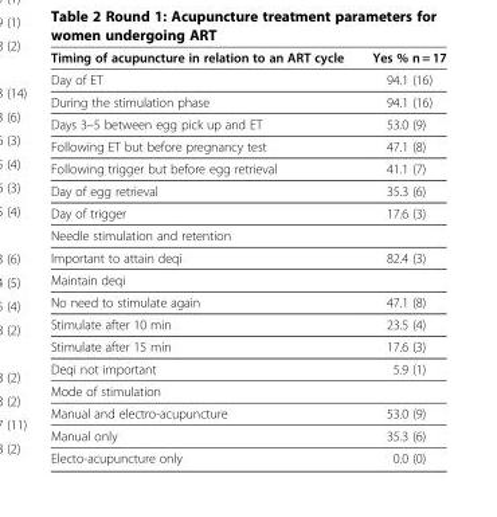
<table><thead><tr><td>Timing of acupuncture in relation to an ART cycle</td><td>Yes % n = 17</td></tr></thead><tbody><tr><td>Day of ET</td><td>94.1 (16)</td></tr><tr><td>During the stimulation phase</td><td>94.1 (16)</td></tr><tr><td>Days 3–5 between egg pick up and ET</td><td>53.0 (9)</td></tr><tr><td>Following ET but before pregnancy test</td><td>47.1 (8)</td></tr><tr><td>Following trigger but before egg retrieval</td><td>41.1 (7)</td></tr><tr><td>Day of egg retrieval</td><td>35.3 (6)</td></tr><tr><td>Day of trigger</td><td>17.6 (3)</td></tr><tr><td colspan="2">Needle stimulation and retention</td></tr><tr><td>Important to attain deqi</td><td>82.4 (3)</td></tr><tr><td colspan="2">Maintain deqi</td></tr><tr><td>No need to stimulate again</td><td>47.1 (8)</td></tr><tr><td>Stimulate after 10 min</td><td>23.5 (4)</td></tr><tr><td>Stimulate after 15 min</td><td>17.6 (3)</td></tr><tr><td>Deqi not important</td><td>5.9 (1)</td></tr><tr><td colspan="2">Mode of stimulation</td></tr><tr><td>Manual and electro-acupuncture</td><td>53.0 (9)</td></tr><tr><td>Manual only</td><td>35.3 (6)</td></tr><tr><td>Electo-acupuncture only</td><td>0.0 (0)</td></tr></tbody></table>